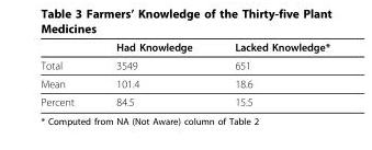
<table><thead><tr><td></td><td>Had Knowledge</td><td>Lacked Knowledge*</td></tr></thead><tbody><tr><td>Total</td><td>3549</td><td>651</td></tr><tr><td>Mean</td><td>101.4</td><td>18.6</td></tr><tr><td>Percent</td><td>84.5</td><td>15.5</td></tr></tbody></table>